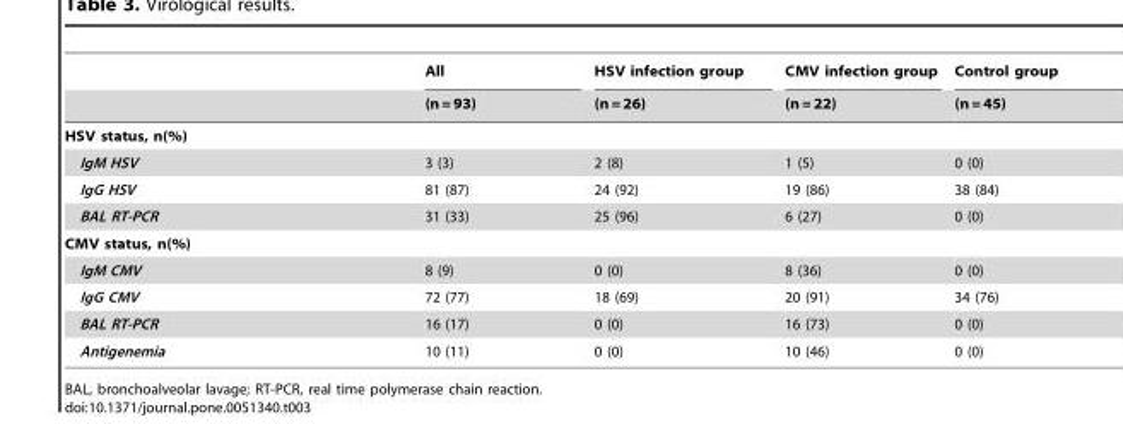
<table><thead><tr><td rowspan="2"></td><td rowspan="2">All (n = 93)</td><td rowspan="2">HSV infection group (n = 26)</td><td rowspan="2">CMV infection group (n = 22)</td><td rowspan="2">Control group (n = 45)</td></tr><tr></tr></thead><tbody><tr><td colspan="5">HSV status, n(%)</td></tr><tr><td>IgM HSV</td><td>3 (3)</td><td>2 (8)</td><td>1 (5)</td><td>0 (0)</td></tr><tr><td>IgG HSV</td><td>81 (87)</td><td>24 (92)</td><td>19 (86)</td><td>38 (84)</td></tr><tr><td>BAL RT-PCR</td><td>31 (33)</td><td>25 (96)</td><td>6 (27)</td><td>0 (0)</td></tr><tr><td colspan="5">CMV status, n(%)</td></tr><tr><td>IgM CMV</td><td>8 (9)</td><td>0 (0)</td><td>8 (36)</td><td>0 (0)</td></tr><tr><td>IgG CMV</td><td>72 (77)</td><td>18 (69)</td><td>20 (91)</td><td>34 (76)</td></tr><tr><td>BAL RT-PCR</td><td>16 (17)</td><td>0 (0)</td><td>16 (73)</td><td>0 (0)</td></tr><tr><td>Antigenemia</td><td>10 (11)</td><td>0 (0)</td><td>10 (46)</td><td>0 (0)</td></tr></tbody></table>